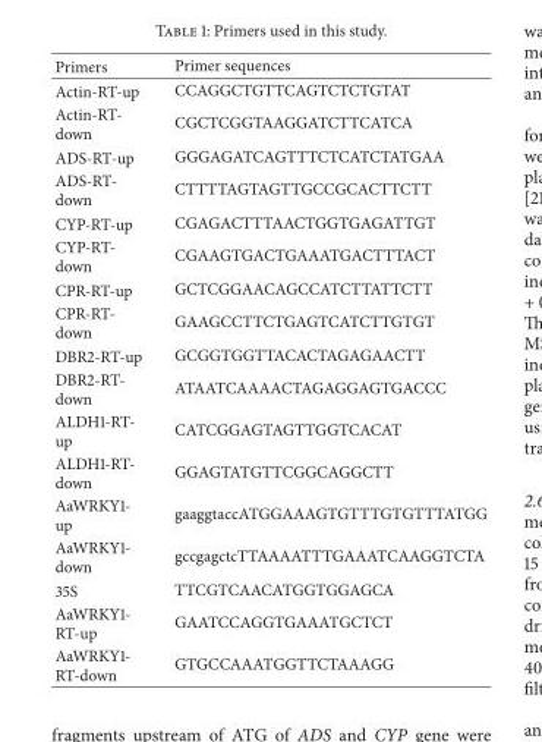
<table><thead><tr><td>Primers</td><td>Primer sequences</td></tr></thead><tbody><tr><td>Actin-RT-up</td><td>CCAGGCTGTTCAGTCTCTGTAT</td></tr><tr><td>Actin-RT- down</td><td>CGCTCGGTAAGGATCTTCATCA</td></tr><tr><td>ADS-RT-up</td><td>GGGAGATCAGTTTCTCATCTATGAA</td></tr><tr><td>ADS-RT- down</td><td>CTTTTAGTAGTTGCCGCACTTCTT</td></tr><tr><td>CYP-RT-up</td><td>CGAGACTTTAACTGGTGAGATTGT</td></tr><tr><td>CYP-RT- down</td><td>CGAAGTGACTGAAATGACTTTACT</td></tr><tr><td>CPR-RT-up</td><td>GCTCGGAACAGCCATCTTATTCTT</td></tr><tr><td>CPR-RT- down</td><td>GAAGCCTTCTGAGTCATCTTGTGT</td></tr><tr><td>DBR2-RT-up</td><td>GCGGTGGTTACACTAGAGAACTT</td></tr><tr><td>DBR2-RT- down</td><td>ATAATCAAAACTAGAGGAGTGACCC</td></tr><tr><td>ALDH1-RT- up</td><td>CATCGGAGTAGTTGGTCACAT</td></tr><tr><td>ALDH1-RT- down</td><td>GGAGTATGTTCGGCAGGCTT</td></tr><tr><td>AaWRKY1- up</td><td>gaaggtaccATGGAAAGTGTTTGTGTTTATGG</td></tr><tr><td>AaWRKY1- down</td><td>gccgagctcTTAAAATTTGAAATCAAGGTCTA</td></tr><tr><td>35S</td><td>TTCGTCAACATGGTGGAGCA</td></tr><tr><td>AaWRKY1- RT-up</td><td>GAATCCAGGTGAAATGCTCT</td></tr><tr><td>AaWRKY1- RT-down</td><td>GTGCCAAATGGTTCTAAAGG</td></tr></tbody></table>